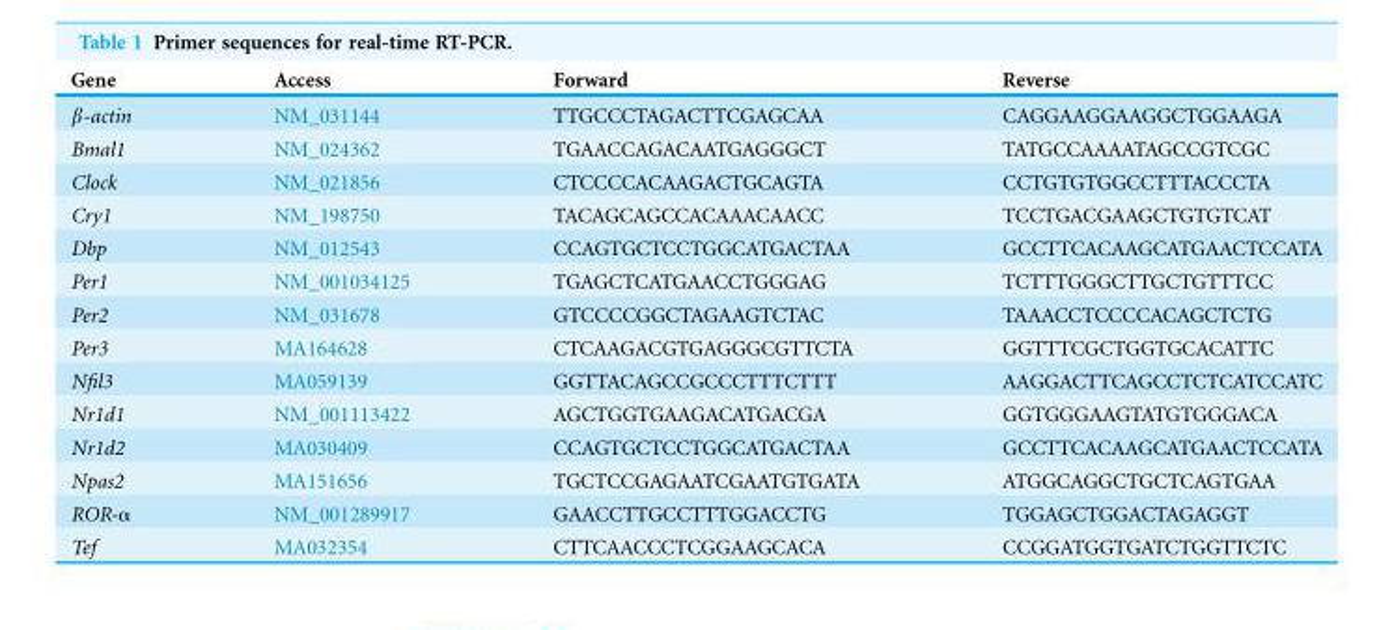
<table><thead><tr><td>Gene</td><td>Access</td><td>Forward</td><td>Reverse</td></tr></thead><tbody><tr><td>β-actin</td><td>NM_031144</td><td>TTGCCCTAGACTTCGAGCAA</td><td>CAGGAAGGAAGGCTGGAAGA</td></tr><tr><td>Bmal1</td><td>NM_024362</td><td>TGAACCAGACAATGAGGGCT</td><td>TATGCCAAAATAGCCGTCGC</td></tr><tr><td>Clock</td><td>NM_021856</td><td>CTCCCCACAAGACTGCAGTA</td><td>CCTGTGTGGCCTTTACCCTA</td></tr><tr><td>Cry1</td><td>NM_198750</td><td>TACAGCAGCCACAAACAACC</td><td>TCCTGACGAAGCTGTGTCAT</td></tr><tr><td>Dbp</td><td>NM_012543</td><td>CCAGTGCTCCTGGCATGACTAA</td><td>GCCTTCACAAGCATGAACTCCATA</td></tr><tr><td>Per1</td><td>NM_001034125</td><td>TGAGCTCATGAACCTGGGAG</td><td>TCTTTGGGCTTGCTGTTTCC</td></tr><tr><td>Per2</td><td>NM_031678</td><td>GTCCCCGGCTAGAAGTCTAC</td><td>TAAACCTCCCCACAGCTCTG</td></tr><tr><td>Per3</td><td>MA164628</td><td>CTCAAGACGTGAGGGCGTTCTA</td><td>GGTTTCGCTGGTGCACATTC</td></tr><tr><td>Nfil3</td><td>MA059139</td><td>GGTTACAGCCGCCCTTTCTTT</td><td>AAGGACTTCAGCCTCTCATCCATC</td></tr><tr><td>Nr1d1</td><td>NM_001113422</td><td>AGCTGGTGAAGACATGACGA</td><td>GGTGGGAAGTATGTGGGACA</td></tr><tr><td>Nr1d2</td><td>MA030409</td><td>CCAGTGCTCCTGGCATGACTAA</td><td>GCCTTCACAAGCATGAACTCCATA</td></tr><tr><td>Npas2</td><td>MA151656</td><td>TGCTCCGAGAATCGAATGTGATA</td><td>ATGGCAGGCTGCTCAGTGAA</td></tr><tr><td>ROR-α</td><td>NM_001289917</td><td>GAACCTTGCCTTTGGACCTG</td><td>TGGAGCTGGACTAGAGGT</td></tr><tr><td>Tef</td><td>MA032354</td><td>CTTCAACCCTCGGAAGCACA</td><td>CCGGATGGTGATCTGGTTCTC</td></tr></tbody></table>